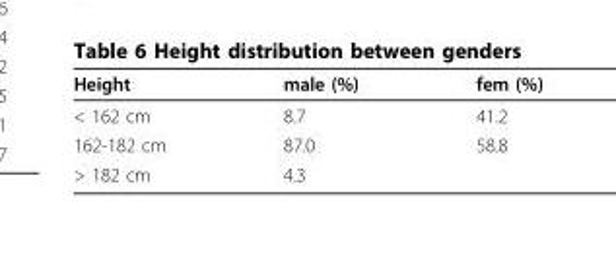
<table><thead><tr><td>Height</td><td>male (%)</td><td>fem (%)</td></tr></thead><tbody><tr><td>&lt; 162 cm</td><td>8.7</td><td>41.2</td></tr><tr><td>162-182 cm</td><td>87.0</td><td>58.8</td></tr><tr><td>&gt; 182 cm</td><td>4.3</td><td></td></tr></tbody></table>